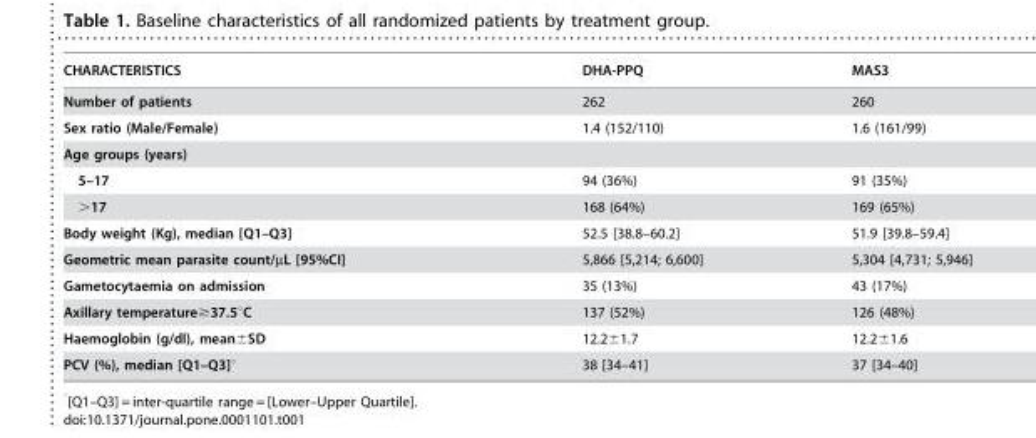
<table><thead><tr><td>CHARACTERISTICS</td><td>DHA-PPQ</td><td>MAS3</td></tr></thead><tbody><tr><td>Number of patients</td><td>262</td><td>260</td></tr><tr><td>Sex ratio (Male/Female)</td><td>1.4 (152/110)</td><td>1.6 (161/99)</td></tr><tr><td colspan="3">Age groups (years)</td></tr><tr><td>5–17</td><td>94 (36%)</td><td>91 (35%)</td></tr><tr><td>&gt;17</td><td>168 (64%)</td><td>169 (65%)</td></tr><tr><td>Body weight (Kg), median [Q1–Q3]</td><td>52.5 [38.8–60.2]</td><td>51.9 [39.8–59.4]</td></tr><tr><td>Geometric mean parasite count/µL [95%CI]</td><td>5,866 [5,214; 6,600]</td><td>5,304 [4,731; 5,946]</td></tr><tr><td>Gametocytaemia on admission</td><td>35 (13%)</td><td>43 (17%)</td></tr><tr><td>Axillary temperature≥37.5°C</td><td>137 (52%)</td><td>126 (48%)</td></tr><tr><td>Haemoglobin (g/dl), mean±SD</td><td>12.2±1.7</td><td>12.2±1.6</td></tr><tr><td>PCV (%), median [Q1–Q3]°</td><td>38 [34–41]</td><td>37 [34–40]</td></tr></tbody></table>